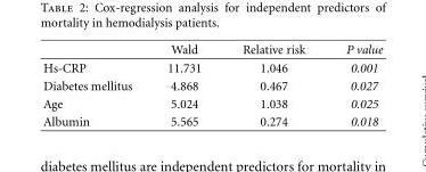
<table><thead><tr><td></td><td>Wald</td><td>Relative risk</td><td>P value</td></tr></thead><tbody><tr><td>Hs-CRP</td><td>11.731</td><td>1.046</td><td>0.001</td></tr><tr><td>Diabetes mellitus</td><td>4.868</td><td>0.467</td><td>0.027</td></tr><tr><td>Age</td><td>5.024</td><td>1.038</td><td>0.025</td></tr><tr><td>Albumin</td><td>5.565</td><td>0.274</td><td>0.018</td></tr></tbody></table>